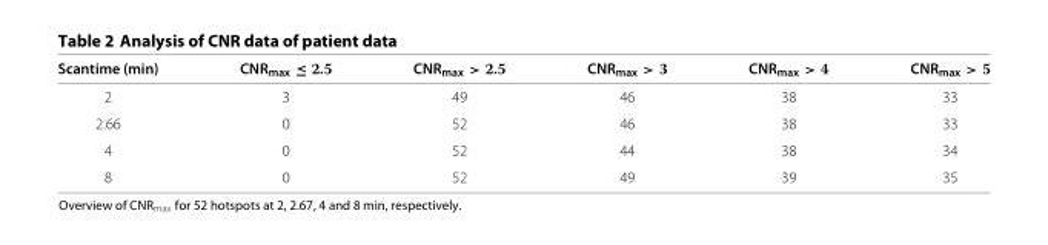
<table><thead><tr><td>Scantime (min)</td><td>CNR<sub>max</sub> ≤ 2.5</td><td>CNR<sub>max</sub> &gt; 2.5</td><td>CNR<sub>max</sub> &gt; 3</td><td>CNR<sub>max</sub> &gt; 4</td><td>CNR<sub>max</sub> &gt; 5</td></tr></thead><tbody><tr><td>2</td><td>3</td><td>49</td><td>46</td><td>38</td><td>33</td></tr><tr><td>2.66</td><td>0</td><td>52</td><td>46</td><td>38</td><td>33</td></tr><tr><td>4</td><td>0</td><td>52</td><td>44</td><td>38</td><td>34</td></tr><tr><td>8</td><td>0</td><td>52</td><td>49</td><td>39</td><td>35</td></tr></tbody></table>